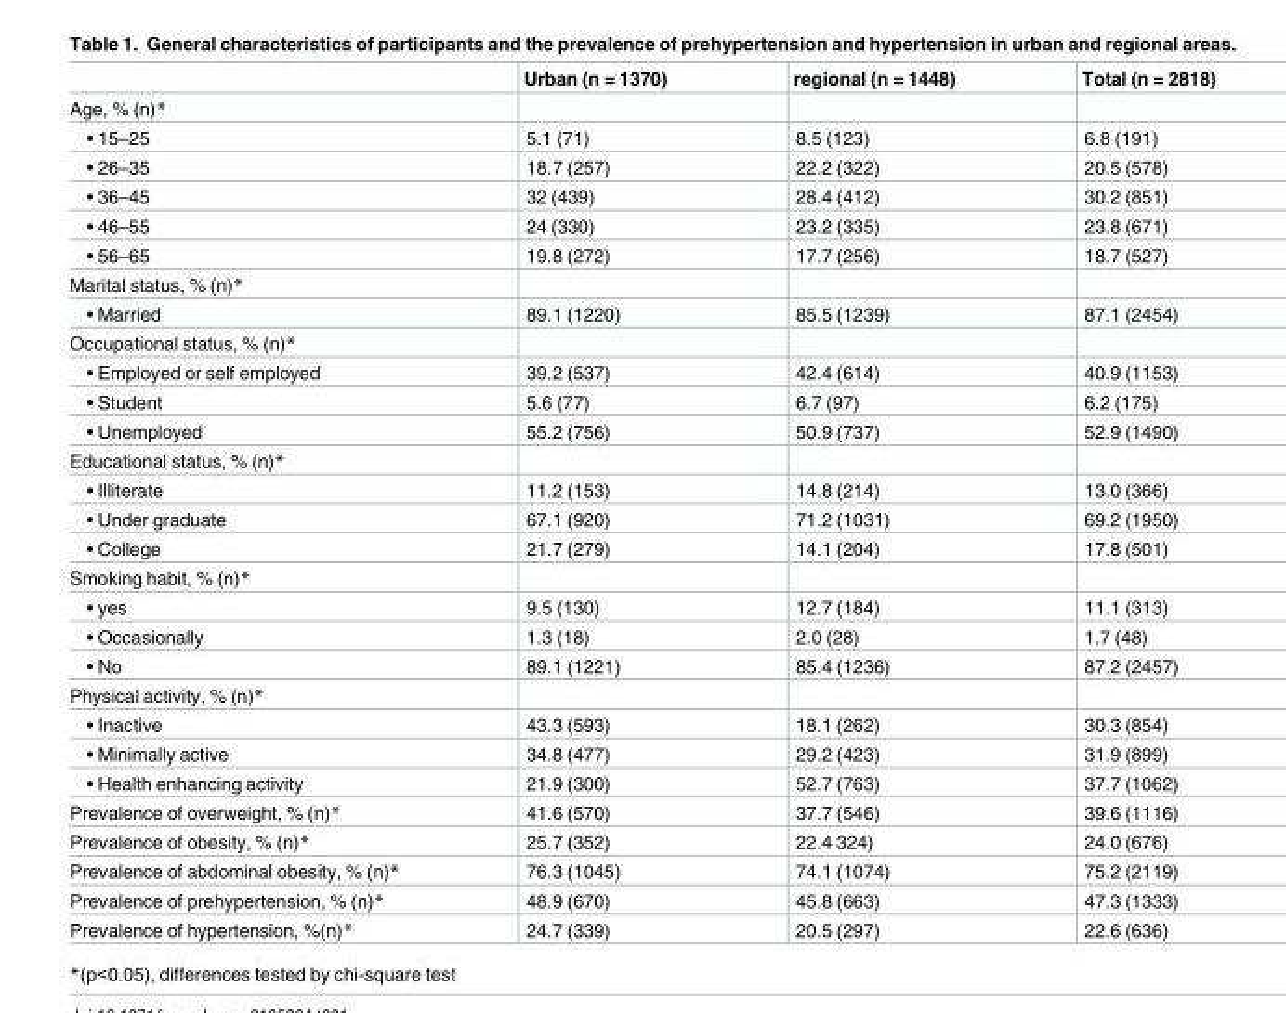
<table><thead><tr><td></td><td>Urban (n = 1370)</td><td>regional (n = 1448)</td><td>Total (n = 2818)</td></tr></thead><tbody><tr><td colspan="4">Age, % (n)*</td></tr><tr><td>• 15–25</td><td>5.1 (71)</td><td>8.5 (123)</td><td>6.8 (191)</td></tr><tr><td>• 26–35</td><td>18.7 (257)</td><td>22.2 (322)</td><td>20.5 (578)</td></tr><tr><td>• 36–45</td><td>32 (439)</td><td>28.4 (412)</td><td>30.2 (851)</td></tr><tr><td>• 46–55</td><td>24 (330)</td><td>23.2 (335)</td><td>23.8 (671)</td></tr><tr><td>• 56–65</td><td>19.8 (272)</td><td>17.7 (256)</td><td>18.7 (527)</td></tr><tr><td colspan="4">Marital status, % (n)*</td></tr><tr><td>• Married</td><td>89.1 (1220)</td><td>85.5 (1239)</td><td>87.1 (2454)</td></tr><tr><td colspan="4">Occupational status, % (n)*</td></tr><tr><td>• Employed or self employed</td><td>39.2 (537)</td><td>42.4 (614)</td><td>40.9 (1153)</td></tr><tr><td>• Student</td><td>5.6 (77)</td><td>6.7 (97)</td><td>6.2 (175)</td></tr><tr><td>• Unemployed</td><td>55.2 (756)</td><td>50.9 (737)</td><td>52.9 (1490)</td></tr><tr><td colspan="4">Educational status, % (n)*</td></tr><tr><td>• Illiterate</td><td>11.2 (153)</td><td>14.8 (214)</td><td>13.0 (366)</td></tr><tr><td>• Under graduate</td><td>67.1 (920)</td><td>71.2 (1031)</td><td>69.2 (1950)</td></tr><tr><td>• College</td><td>21.7 (279)</td><td>14.1 (204)</td><td>17.8 (501)</td></tr><tr><td colspan="4">Smoking habit, % (n)*</td></tr><tr><td>• yes</td><td>9.5 (130)</td><td>12.7 (184)</td><td>11.1 (313)</td></tr><tr><td>• Occasionally</td><td>1.3 (18)</td><td>2.0 (28)</td><td>1.7 (48)</td></tr><tr><td>• No</td><td>89.1 (1221)</td><td>85.4 (1236)</td><td>87.2 (2457)</td></tr><tr><td colspan="4">Physical activity, % (n)*</td></tr><tr><td>• Inactive</td><td>43.3 (593)</td><td>18.1 (262)</td><td>30.3 (854)</td></tr><tr><td>• Minimally active</td><td>34.8 (477)</td><td>29.2 (423)</td><td>31.9 (899)</td></tr><tr><td>• Health enhancing activity</td><td>21.9 (300)</td><td>52.7 (763)</td><td>37.7 (1062)</td></tr><tr><td>Prevalence of overweight, % (n)*</td><td>41.6 (570)</td><td>37.7 (546)</td><td>39.6 (1116)</td></tr><tr><td>Prevalence of obesity, % (n)*</td><td>25.7 (352)</td><td>22.4 324)</td><td>24.0 (676)</td></tr><tr><td>Prevalence of abdominal obesity, % (n)*</td><td>76.3 (1045)</td><td>74.1 (1074)</td><td>75.2 (2119)</td></tr><tr><td>Prevalence of prehypertension, % (n)*</td><td>48.9 (670)</td><td>45.8 (663)</td><td>47.3 (1333)</td></tr><tr><td>Prevalence of hypertension, %(n)*</td><td>24.7 (339)</td><td>20.5 (297)</td><td>22.6 (636)</td></tr></tbody></table>